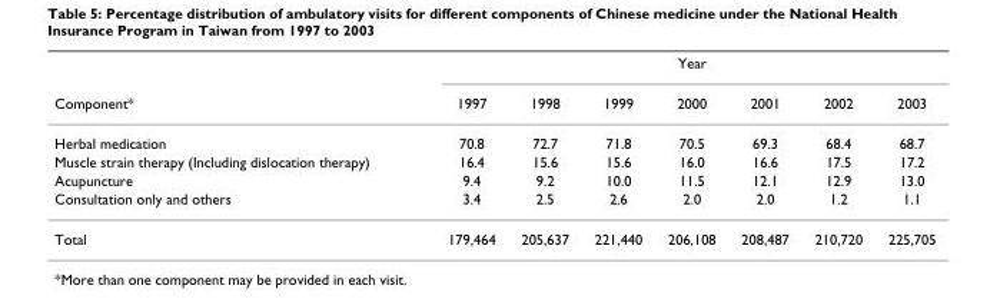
<table><thead><tr><td rowspan="2">Component*</td><td colspan="7">Year</td></tr><tr><td>1997</td><td>1998</td><td>1999</td><td>2000</td><td>2001</td><td>2002</td><td>2003</td></tr></thead><tbody><tr><td>Herbal medication</td><td>70.8</td><td>72.7</td><td>71.8</td><td>70.5</td><td>69.3</td><td>68.4</td><td>68.7</td></tr><tr><td>Muscle strain therapy (Including dislocation therapy)</td><td>16.4</td><td>15.6</td><td>15.6</td><td>16.0</td><td>16.6</td><td>17.5</td><td>17.2</td></tr><tr><td>Acupuncture</td><td>9.4</td><td>9.2</td><td>10.0</td><td>11.5</td><td>12.1</td><td>12.9</td><td>13.0</td></tr><tr><td>Consultation only and others</td><td>3.4</td><td>2.5</td><td>2.6</td><td>2.0</td><td>2.0</td><td>1.2</td><td>1.1</td></tr><tr><td>Total</td><td>179,464</td><td>205,637</td><td>221,440</td><td>206,108</td><td>208,487</td><td>210,720</td><td>225,705</td></tr></tbody></table>